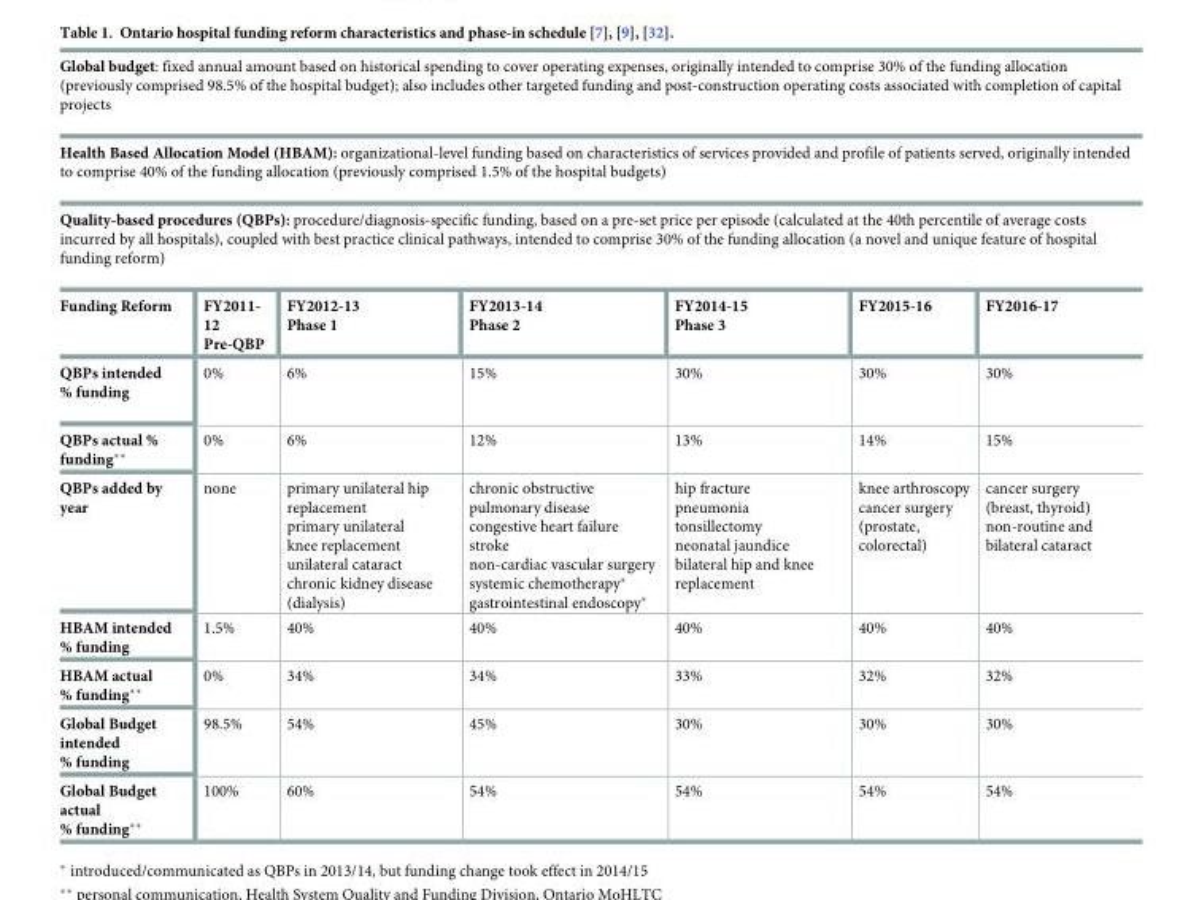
<table><tbody><tr><td colspan="7">Global budget: fixed annual amount based on historical spending to cover operating expenses, originally intended to comprise 30% of the funding allocation (previously comprised 98.5% of the hospital budget); also includes other targeted funding and post-construction operating costs associated with completion of capital projects</td></tr><tr><td colspan="7">Health Based Allocation Model (HBAM): organizational-level funding based on characteristics of services provided and profile of patients served, originally intended to comprise 40% of the funding allocation (previously comprised 1.5% of the hospital budgets)</td></tr><tr><td colspan="7">Quality-based procedures (QBPs): procedure/diagnosis-specific funding, based on a pre-set price per episode (calculated at the 40th percentile of average costs incurred by all hospitals), coupled with best practice clinical pathways, intended to comprise 30% of the funding allocation (a novel and unique feature of hospital funding reform)</td></tr><tr><td>Funding Reform</td><td>FY2011- 12 Pre-QBP</td><td>FY2012-13 Phase 1</td><td>FY2013-14 Phase 2</td><td>FY2014-15 Phase 3</td><td>FY2015-16</td><td>FY2016-17</td></tr><tr><td>QBPs intended % funding</td><td>0%</td><td>6%</td><td>15%</td><td>30%</td><td>30%</td><td>30%</td></tr><tr><td>QBPs actual % funding**</td><td>0%</td><td>6%</td><td>12%</td><td>13%</td><td>14%</td><td>15%</td></tr><tr><td>QBPs added by year</td><td>none</td><td>primary unilateral hip replacement primary unilateral knee replacement unilateral cataract chronic kidney disease (dialysis)</td><td>chronic obstructive pulmonary disease congestive heart failure stroke non-cardiac vascular surgery systemic chemotherapy* gastrointestinal endoscopy*</td><td>hip fracture pneumonia tonsillectomy neonatal jaundice bilateral hip and knee replacement</td><td>knee arthroscopy cancer surgery (prostate, colorectal)</td><td>cancer surgery (breast, thyroid) non-routine and bilateral cataract</td></tr><tr><td>HBAM intended % funding</td><td>1.5%</td><td>40%</td><td>40%</td><td>40%</td><td>40%</td><td>40%</td></tr><tr><td>HBAM actual % funding**</td><td>0%</td><td>34%</td><td>34%</td><td>33%</td><td>32%</td><td>32%</td></tr><tr><td>Global Budget intended % funding</td><td>98.5%</td><td>54%</td><td>45%</td><td>30%</td><td>30%</td><td>30%</td></tr><tr><td>Global Budget actual % funding**</td><td>100%</td><td>60%</td><td>54%</td><td>54%</td><td>54%</td><td>54%</td></tr></tbody></table>